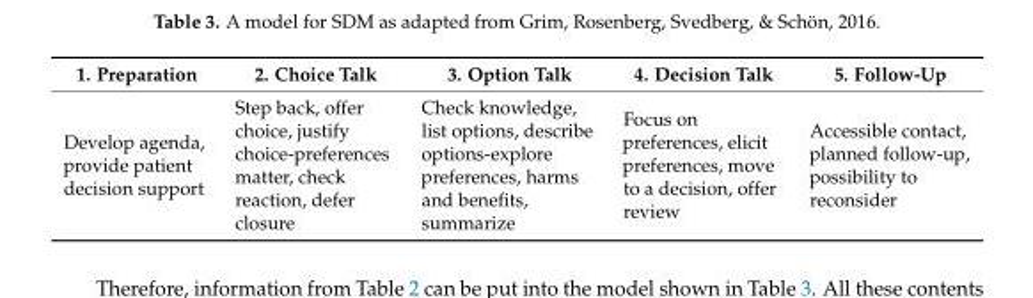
<table><thead><tr><td>1. Preparation</td><td>2. Choice Talk</td><td>3. Option Talk</td><td>4. Decision Talk</td><td>5. Follow-Up</td></tr></thead><tbody><tr><td>Develop agenda, provide patient decision support</td><td>Step back, offer choice, justify choice-preferences matter, check reaction, defer closure</td><td>Check knowledge, list options, describe options-explore preferences, harms and benefits, summarize</td><td>Focus on preferences, elicit preferences, move to a decision, offer review</td><td>Accessible contact, planned follow-up, possibility to reconsider</td></tr></tbody></table>